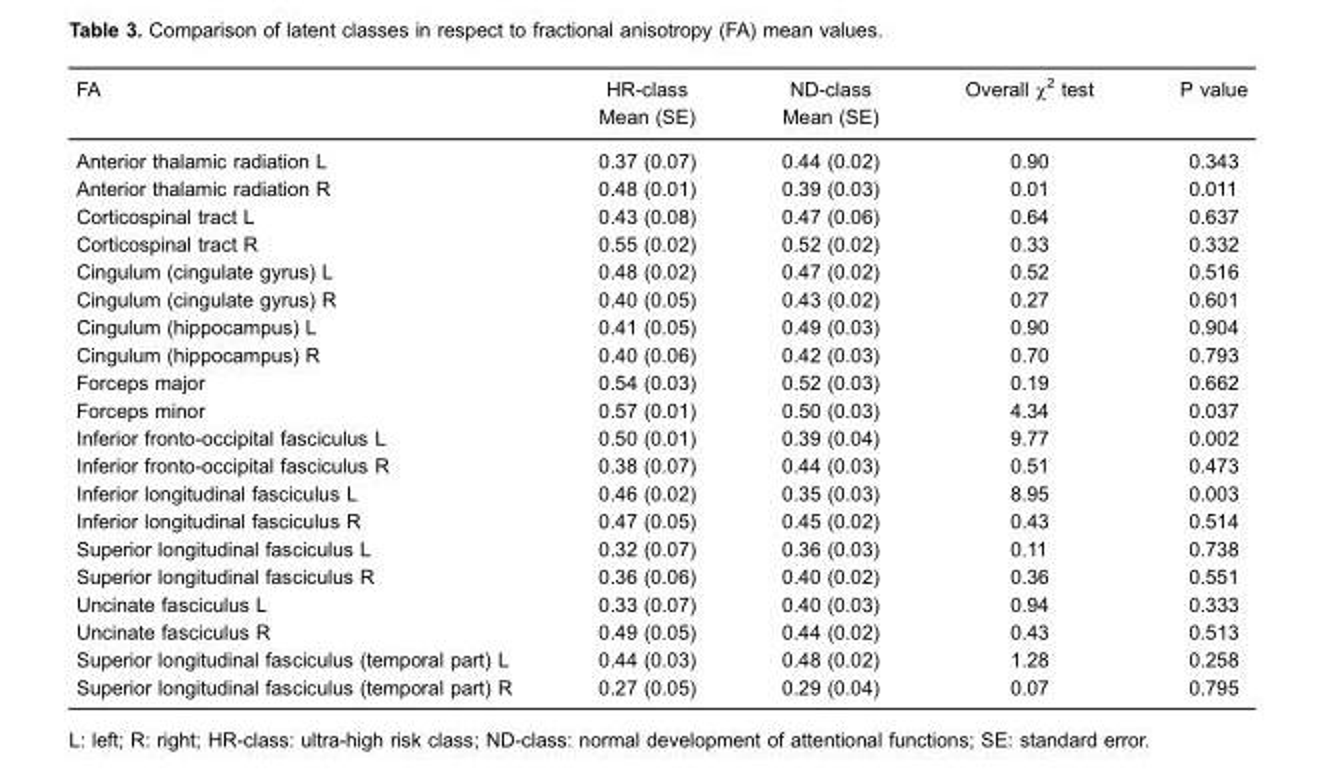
<table><thead><tr><td>FA</td><td>HR-class Mean (SE)</td><td>ND-class Mean (SE)</td><td>Overall χ<sup>2</sup> test</td><td>P value</td></tr></thead><tbody><tr><td>Anterior thalamic radiation L</td><td>0.37 (0.07)</td><td>0.44 (0.02)</td><td>0.90</td><td>0.343</td></tr><tr><td>Anterior thalamic radiation R</td><td>0.48 (0.01)</td><td>0.39 (0.03)</td><td>0.01</td><td>0.011</td></tr><tr><td>Corticospinal tract L</td><td>0.43 (0.08)</td><td>0.47 (0.06)</td><td>0.64</td><td>0.637</td></tr><tr><td>Corticospinal tract R</td><td>0.55 (0.02)</td><td>0.52 (0.02)</td><td>0.33</td><td>0.332</td></tr><tr><td>Cingulum (cingulate gyrus) L</td><td>0.48 (0.02)</td><td>0.47 (0.02)</td><td>0.52</td><td>0.516</td></tr><tr><td>Cingulum (cingulate gyrus) R</td><td>0.40 (0.05)</td><td>0.43 (0.02)</td><td>0.27</td><td>0.601</td></tr><tr><td>Cingulum (hippocampus) L</td><td>0.41 (0.05)</td><td>0.49 (0.03)</td><td>0.90</td><td>0.904</td></tr><tr><td>Cingulum (hippocampus) R</td><td>0.40 (0.06)</td><td>0.42 (0.03)</td><td>0.70</td><td>0.793</td></tr><tr><td>Forceps major</td><td>0.54 (0.03)</td><td>0.52 (0.03)</td><td>0.19</td><td>0.662</td></tr><tr><td>Forceps minor</td><td>0.57 (0.01)</td><td>0.50 (0.03)</td><td>4.34</td><td>0.037</td></tr><tr><td>Inferior fronto-occipital fasciculus L</td><td>0.50 (0.01)</td><td>0.39 (0.04)</td><td>9.77</td><td>0.002</td></tr><tr><td>Inferior fronto-occipital fasciculus R</td><td>0.38 (0.07)</td><td>0.44 (0.03)</td><td>0.51</td><td>0.473</td></tr><tr><td>Inferior longitudinal fasciculus L</td><td>0.46 (0.02)</td><td>0.35 (0.03)</td><td>8.95</td><td>0.003</td></tr><tr><td>Inferior longitudinal fasciculus R</td><td>0.47 (0.05)</td><td>0.45 (0.02)</td><td>0.43</td><td>0.514</td></tr><tr><td>Superior longitudinal fasciculus L</td><td>0.32 (0.07)</td><td>0.36 (0.03)</td><td>0.11</td><td>0.738</td></tr><tr><td>Superior longitudinal fasciculus R</td><td>0.36 (0.06)</td><td>0.40 (0.02)</td><td>0.36</td><td>0.551</td></tr><tr><td>Uncinate fasciculus L</td><td>0.33 (0.07)</td><td>0.40 (0.03)</td><td>0.94</td><td>0.333</td></tr><tr><td>Uncinate fasciculus R</td><td>0.49 (0.05)</td><td>0.44 (0.02)</td><td>0.43</td><td>0.513</td></tr><tr><td>Superior longitudinal fasciculus (temporal part) L</td><td>0.44 (0.03)</td><td>0.48 (0.02)</td><td>1.28</td><td>0.258</td></tr><tr><td>Superior longitudinal fasciculus (temporal part) R</td><td>0.27 (0.05)</td><td>0.29 (0.04)</td><td>0.07</td><td>0.795</td></tr></tbody></table>